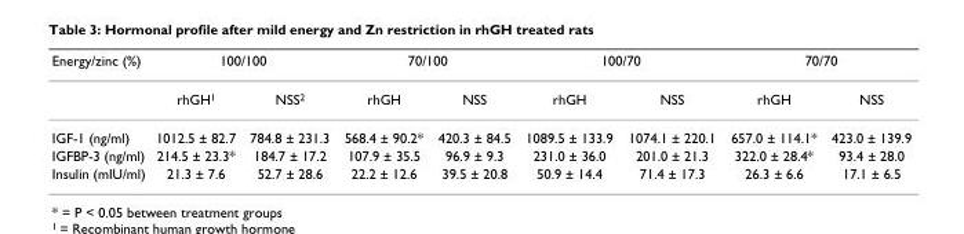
<table><thead><tr><td rowspan="2">Energy/zinc (%)</td><td colspan="2">100/100</td><td colspan="2">70/100</td><td colspan="2">100/70</td><td colspan="2">70/70</td></tr><tr><td>rhGH<sup>1</sup></td><td>NSS<sup>2</sup></td><td>rhGH</td><td>NSS</td><td>rhGH</td><td>NSS</td><td>rhGH</td><td>NSS</td></tr></thead><tbody><tr><td>IGF-1 (ng/ml)</td><td>1012.5 ± 82.7</td><td>784.8 ± 231.3</td><td>568.4 ± 90.2*</td><td>420.3 ± 84.5</td><td>1089.5 ± 133.9</td><td>1074.1 ± 220.1</td><td>657.0 ± 114.1*</td><td>423.0 ± 139.9</td></tr><tr><td>IGFBP-3 (ng/ml)</td><td>214.5 ± 23.3*</td><td>184.7 ± 17.2</td><td>107.9 ± 35.5</td><td>96.9 ± 9.3</td><td>231.0 ± 36.0</td><td>201.0 ± 21.3</td><td>322.0 ± 28.4*</td><td>93.4 ± 28.0</td></tr><tr><td>Insulin (mIU/ml)</td><td>21.3 ± 7.6</td><td>52.7 ± 28.6</td><td>22.2 ± 12.6</td><td>39.5 ± 20.8</td><td>50.9 ± 14.4</td><td>71.4 ± 17.3</td><td>26.3 ± 6.6</td><td>17.1 ± 6.5</td></tr></tbody></table>